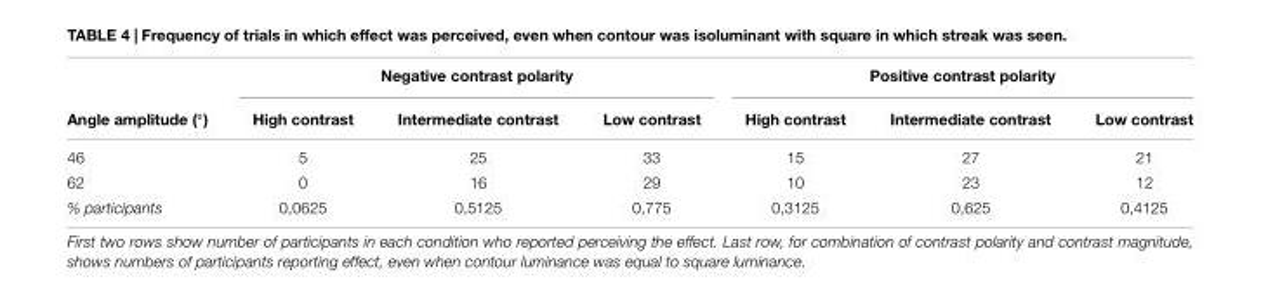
<table><thead><tr><td rowspan="2">Angle amplitude (◦)</td><td colspan="3">Negative contrast polarity</td><td colspan="3">Positive contrast polarity</td></tr><tr><td>High contrast</td><td>Intermediate contrast</td><td>Low contrast</td><td>High contrast</td><td>Intermediate contrast</td><td>Low contrast</td></tr></thead><tbody><tr><td>46</td><td>5</td><td>25</td><td>33</td><td>15</td><td>27</td><td>21</td></tr><tr><td>62</td><td>0</td><td>16</td><td>29</td><td>10</td><td>23</td><td>12</td></tr><tr><td>% participants</td><td>0,0625</td><td>0,5125</td><td>0,775</td><td>0,3125</td><td>0,625</td><td>0,4125</td></tr></tbody></table>